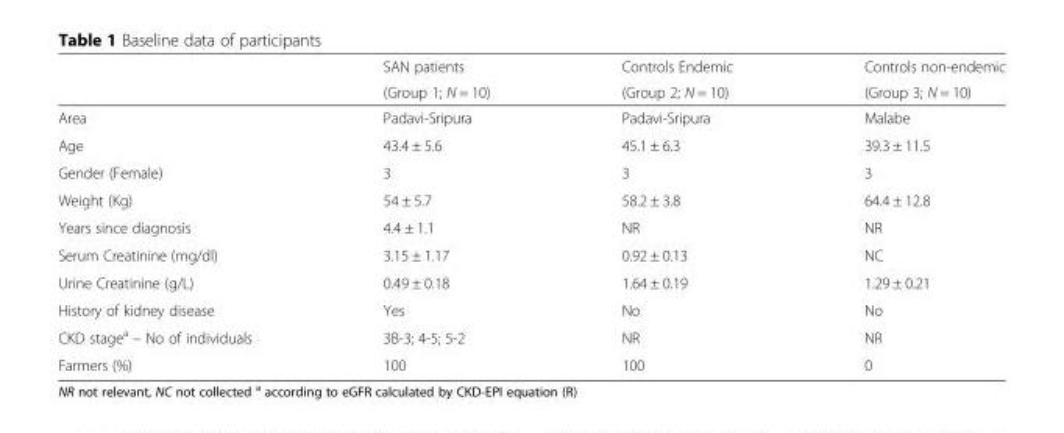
<table><thead><tr><td rowspan="2"></td><td rowspan="2">SAN patients (Group 1; N = 10)</td><td rowspan="2">Controls Endemic (Group 2; N = 10)</td><td rowspan="2">Controls non-endemic (Group 3; N = 10)</td></tr><tr></tr></thead><tbody><tr><td>Area</td><td>Padavi-Sripura</td><td>Padavi-Sripura</td><td>Malabe</td></tr><tr><td>Age</td><td>43.4 ± 5.6</td><td>45.1 ± 6.3</td><td>39.3 ± 11.5</td></tr><tr><td>Gender (Female)</td><td>3</td><td>3</td><td>3</td></tr><tr><td>Weight (Kg)</td><td>54 ± 5.7</td><td>58.2 ± 3.8</td><td>64.4 ± 12.8</td></tr><tr><td>Years since diagnosis</td><td>4.4 ± 1.1</td><td>NR</td><td>NR</td></tr><tr><td>Serum Creatinine (mg/dl)</td><td>3.15 ± 1.17</td><td>0.92 ± 0.13</td><td>NC</td></tr><tr><td>Urine Creatinine (g/L)</td><td>0.49 ± 0.18</td><td>1.64 ± 0.19</td><td>1.29 ± 0.21</td></tr><tr><td>History of kidney disease</td><td>Yes</td><td>No</td><td>No</td></tr><tr><td>CKD stage<sup>a</sup> – No of individuals</td><td>3B-3; 4-5; 5-2</td><td>NR</td><td>NR</td></tr><tr><td>Farmers (%)</td><td>100</td><td>100</td><td>0</td></tr></tbody></table>